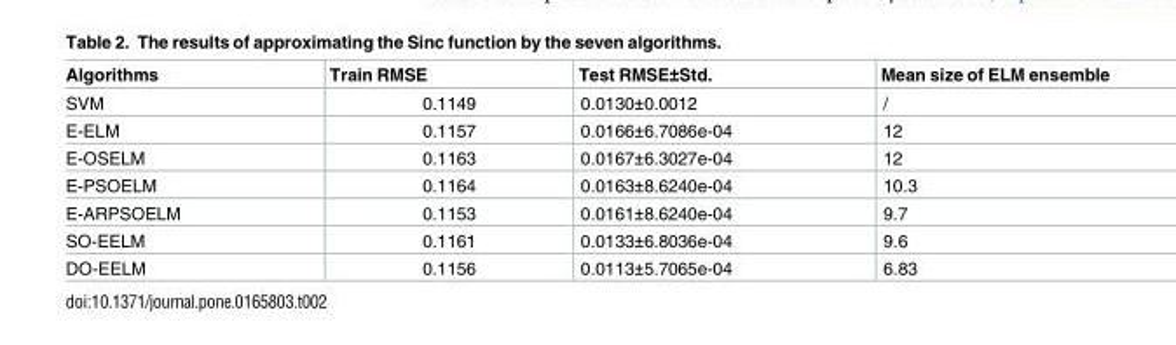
<table><thead><tr><td>Algorithms</td><td>Train RMSE</td><td>Test RMSE±Std.</td><td>Mean size of ELM ensemble</td></tr></thead><tbody><tr><td>SVM</td><td>0.1149</td><td>0.0130±0.0012</td><td>/</td></tr><tr><td>E-ELM</td><td>0.1157</td><td>0.0166±6.7086e-04</td><td>12</td></tr><tr><td>E-OSELM</td><td>0.1163</td><td>0.0167±6.3027e-04</td><td>12</td></tr><tr><td>E-PSOELM</td><td>0.1164</td><td>0.0163±8.6240e-04</td><td>10.3</td></tr><tr><td>E-ARPSOELM</td><td>0.1153</td><td>0.0161±8.6240e-04</td><td>9.7</td></tr><tr><td>SO-EELM</td><td>0.1161</td><td>0.0133±6.8036e-04</td><td>9.6</td></tr><tr><td>DO-EELM</td><td>0.1156</td><td>0.0113±5.7065e-04</td><td>6.83</td></tr></tbody></table>